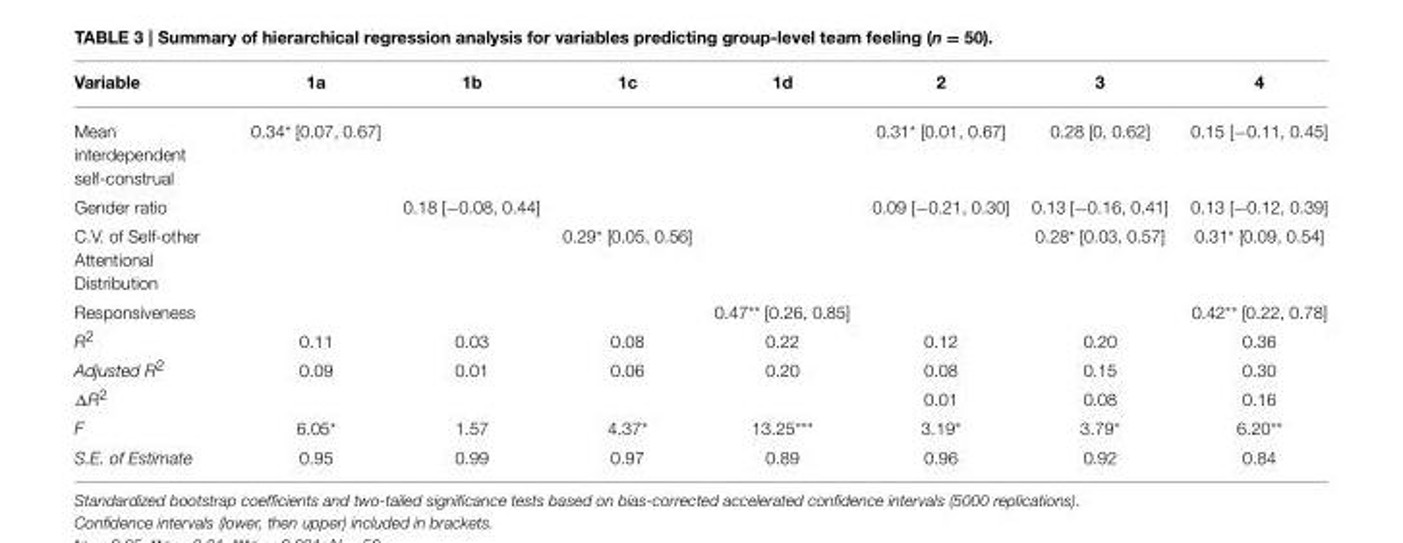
<table><thead><tr><td>Variable</td><td>1a</td><td>1b</td><td>1c</td><td>1d</td><td>2</td><td>3</td><td>4</td></tr></thead><tbody><tr><td>Mean interdependent self-construal</td><td>0.34* [0.07, 0.67]</td><td></td><td></td><td></td><td>0.31* [0.01, 0.67]</td><td>0.28 [0, 0.62]</td><td>0.15 [−0.11, 0.45]</td></tr><tr><td>Gender ratio</td><td></td><td>0.18 [−0.08, 0.44]</td><td></td><td></td><td>0.09 [−0.21, 0.30]</td><td>0.13 [−0.16, 0.41]</td><td>0.13 [−0.12, 0.39]</td></tr><tr><td>C.V. of Self-other Attentional Distribution</td><td></td><td></td><td>0.29* [0.05, 0.56]</td><td></td><td></td><td>0.28* [0.03, 0.57]</td><td>0.31* [0.09, 0.54]</td></tr><tr><td>Responsiveness</td><td></td><td></td><td></td><td>0.47** [0.26, 0.85]</td><td></td><td></td><td>0.42** [0.22, 0.78]</td></tr><tr><td>R<sup>2</sup></td><td>0.11</td><td>0.03</td><td>0.08</td><td>0.22</td><td>0.12</td><td>0.20</td><td>0.36</td></tr><tr><td>Adjusted R<sup>2</sup></td><td>0.09</td><td>0.01</td><td>0.06</td><td>0.20</td><td>0.08</td><td>0.15</td><td>0.30</td></tr><tr><td>ΔR<sup>2</sup></td><td></td><td></td><td></td><td></td><td>0.01</td><td>0.08</td><td>0.16</td></tr><tr><td>F</td><td>6.05*</td><td>1.57</td><td>4.37*</td><td>13.25***</td><td>3.19*</td><td>3.79*</td><td>6.20**</td></tr><tr><td>S.E. of Estimate</td><td>0.95</td><td>0.99</td><td>0.97</td><td>0.89</td><td>0.96</td><td>0.92</td><td>0.84</td></tr></tbody></table>